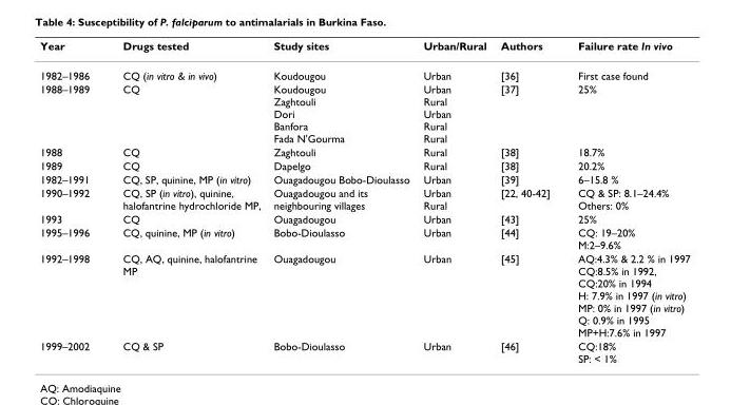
<table><thead><tr><td>Year</td><td>Drugs tested</td><td>Study sites</td><td>Urban/Rural</td><td>Authors</td><td>Failure rate In vivo</td></tr></thead><tbody><tr><td>1982–1986</td><td>CQ (in vitro &amp; in vivo)</td><td>Koudougou</td><td>Urban</td><td>[36]</td><td>First case found</td></tr><tr><td>1988–1989</td><td>CQ</td><td>Koudougou Zaghtouli Dori Banfora Fada N&#x27;Gourma</td><td>Urban Rural Urban Rural Rural</td><td>[37]</td><td>25%</td></tr><tr><td>1988</td><td>CQ</td><td>Zaghtouli</td><td>Rural</td><td>[38]</td><td>18.7%</td></tr><tr><td>1989</td><td>CQ</td><td>Dapelgo</td><td>Rural</td><td>[38]</td><td>20.2%</td></tr><tr><td>1982–1991</td><td>CQ, SP, quinine, MP (in vitro)</td><td>Ouagadougou Bobo-Dioulasso</td><td>Urban</td><td>[39]</td><td>6–15.8 %</td></tr><tr><td>1990–1992</td><td>CQ, SP (in vitro), quinine, halofantrine hydrochloride MP,</td><td>Ouagadougou and its neighbouring villages</td><td>Urban Rural</td><td>[22, 40-42]</td><td>CQ &amp; SP: 8.1–24.4% Others: 0%</td></tr><tr><td>1993</td><td>CQ</td><td>Ouagadougou</td><td>Urban</td><td>[43]</td><td>25%</td></tr><tr><td>1995–1996</td><td>CQ, quinine, MP (in vitro)</td><td>Bobo-Dioulasso</td><td>Urban</td><td>[44]</td><td>CQ: 19–20% M:2–9.6%</td></tr><tr><td>1992–1998</td><td>CQ, AQ, quinine, halofantrine MP</td><td>Ouagadougou</td><td>Urban</td><td>[45]</td><td>AQ:4.3% &amp; 2.2 % in 1997 CQ:8.5% in 1992, CQ:20% in 1994 H: 7.9% in 1997 (in vitro) MP: 0% in 1997 (in vitro) Q: 0.9% in 1995 MP+H:7.6% in 1997</td></tr><tr><td>1999–2002</td><td>CQ &amp; SP</td><td>Bobo-Dioulasso</td><td>Urban</td><td>[46]</td><td>CQ:18% SP: &lt; 1%</td></tr></tbody></table>